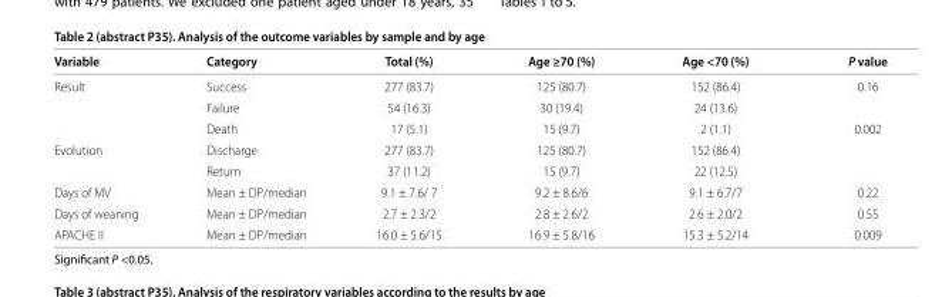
<table><thead><tr><td>Variable</td><td>Category</td><td>Total (%)</td><td>Age ≥70 (%)</td><td>Age &lt;70 (%)</td><td>P value</td></tr></thead><tbody><tr><td rowspan="3">Result</td><td>Success</td><td>277 (83.7)</td><td>125 (80.7)</td><td>152 (86.4)</td><td>0.16</td></tr><tr><td>Failure</td><td>54 (16.3)</td><td>30 (19.4)</td><td>24 (13.6)</td><td></td></tr><tr><td>Death</td><td>17 (5.1)</td><td>15 (9.7)</td><td>2 (1.1)</td><td>0.002</td></tr><tr><td rowspan="2">Evolution</td><td>Discharge</td><td>277 (83.7)</td><td>125 (80.7)</td><td>152 (86.4)</td><td></td></tr><tr><td>Return</td><td>37 (11.2)</td><td>15 (9.7)</td><td>22 (12.5)</td><td></td></tr><tr><td>Days of MV</td><td>Mean ± DP/median</td><td>9.1 ± 7.6/ 7</td><td>9.2 ± 8.6/6</td><td>9.1 ± 6.7/7</td><td>0.22</td></tr><tr><td>Days of weaning</td><td>Mean ± DP/median</td><td>2.7 ± 2.3/2</td><td>2.8 ± 2.6/2</td><td>2.6 ± 2.0/2</td><td>0.55</td></tr><tr><td>APACHE II</td><td>Mean ± DP/median</td><td>16.0 ± 5.6/15</td><td>16.9 ± 5.8/16</td><td>15.3 ± 5.2/14</td><td>0.009</td></tr></tbody></table>